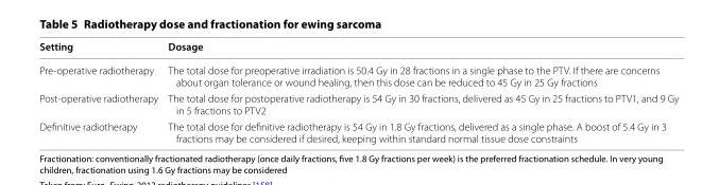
<table><thead><tr><td>Setting</td><td>Dosage</td></tr></thead><tbody><tr><td>Pre-operative radiotherapy</td><td>The total dose for preoperative irradiation is 50.4 Gy in 28 fractions in a single phase to the PTV. If there are concerns about organ tolerance or wound healing, then this dose can be reduced to 45 Gy in 25 Gy fractions</td></tr><tr><td>Post-operative radiotherapy</td><td>The total dose for postoperative radiotherapy is 54 Gy in 30 fractions, delivered as 45 Gy in 25 fractions to PTV1, and 9 Gy in 5 fractions to PTV2</td></tr><tr><td>Definitive radiotherapy</td><td>The total dose for definitive radiotherapy is 54 Gy in 1.8 Gy fractions, delivered as a single phase. A boost of 5.4 Gy in 3 fractions may be considered if desired, keeping within standard normal tissue dose constraints</td></tr></tbody></table>